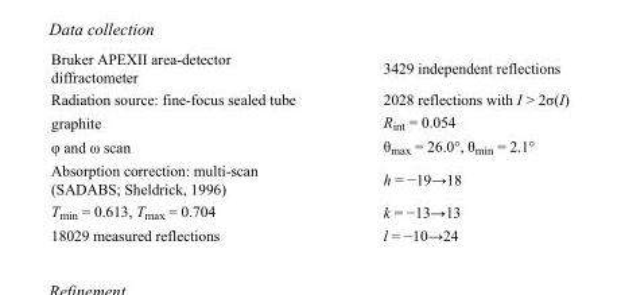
<table><tbody><tr><td>Bruker APEXII area-detector diffractometer</td><td>3429 independent reflections</td></tr><tr><td>Radiation source: fine-focus sealed tube</td><td>2028 reflections with I &gt; 2σ(I)</td></tr><tr><td>graphite</td><td>R<sub>int</sub> = 0.054</td></tr><tr><td>φ and ω scan</td><td>θ<sub>max</sub> = 26.0°, θ<sub>min</sub> = 2.1°</td></tr><tr><td>Absorption correction: multi-scan (SADABS; Sheldrick, 1996)</td><td>h = −19→18</td></tr><tr><td>T<sub>min</sub> = 0.613, T<sub>max</sub> = 0.704</td><td>k = −13→13</td></tr><tr><td>18029 measured reflections</td><td>l = −10→24</td></tr></tbody></table>